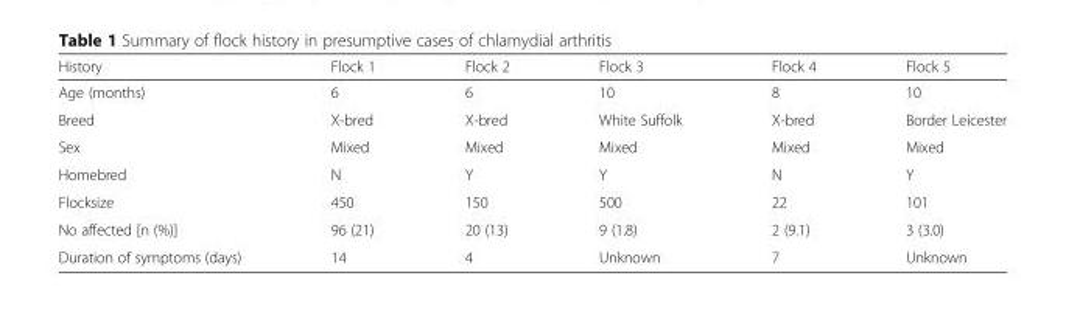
<table><thead><tr><td>History</td><td>Flock 1</td><td>Flock 2</td><td>Flock 3</td><td>Flock 4</td><td>Flock 5</td></tr></thead><tbody><tr><td>Age (months)</td><td>6</td><td>6</td><td>10</td><td>8</td><td>10</td></tr><tr><td>Breed</td><td>X-bred</td><td>X-bred</td><td>White Suffolk</td><td>X-bred</td><td>Border Leicester</td></tr><tr><td>Sex</td><td>Mixed</td><td>Mixed</td><td>Mixed</td><td>Mixed</td><td>Mixed</td></tr><tr><td>Homebred</td><td>N</td><td>Y</td><td>Y</td><td>N</td><td>Y</td></tr><tr><td>Flocksize</td><td>450</td><td>150</td><td>500</td><td>22</td><td>101</td></tr><tr><td>No affected [n (%)]</td><td>96 (21)</td><td>20 (13)</td><td>9 (1.8)</td><td>2 (9.1)</td><td>3 (3.0)</td></tr><tr><td>Duration of symptoms (days)</td><td>14</td><td>4</td><td>Unknown</td><td>7</td><td>Unknown</td></tr></tbody></table>